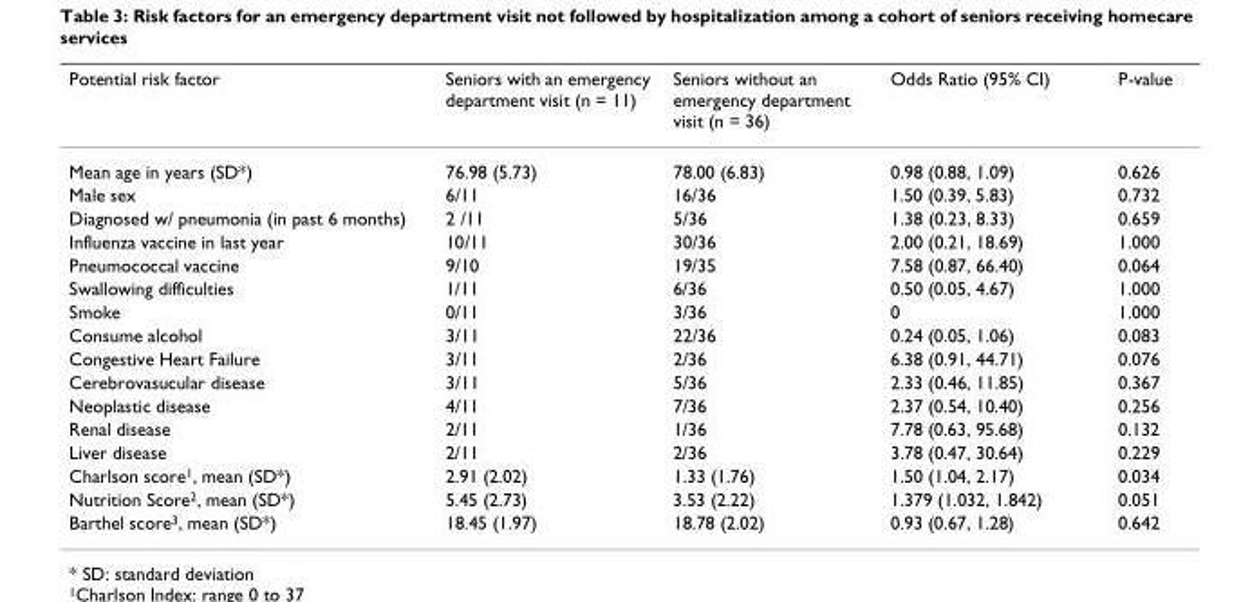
<table><thead><tr><td>Potential risk factor</td><td>Seniors with an emergency department visit (n = 11)</td><td>Seniors without an emergency department visit (n = 36)</td><td>Odds Ratio (95% CI)</td><td>P-value</td></tr></thead><tbody><tr><td>Mean age in years (SD*)</td><td>76.98 (5.73)</td><td>78.00 (6.83)</td><td>0.98 (0.88, 1.09)</td><td>0.626</td></tr><tr><td>Male sex</td><td>6/11</td><td>16/36</td><td>1.50 (0.39, 5.83)</td><td>0.732</td></tr><tr><td>Diagnosed w/ pneumonia (in past 6 months)</td><td>2 /11</td><td>5/36</td><td>1.38 (0.23, 8.33)</td><td>0.659</td></tr><tr><td>Influenza vaccine in last year</td><td>10/11</td><td>30/36</td><td>2.00 (0.21, 18.69)</td><td>1.000</td></tr><tr><td>Pneumococcal vaccine</td><td>9/10</td><td>19/35</td><td>7.58 (0.87, 66.40)</td><td>0.064</td></tr><tr><td>Swallowing difficulties</td><td>1/11</td><td>6/36</td><td>0.50 (0.05, 4.67)</td><td>1.000</td></tr><tr><td>Smoke</td><td>0/11</td><td>3/36</td><td>0</td><td>1.000</td></tr><tr><td>Consume alcohol</td><td>3/11</td><td>22/36</td><td>0.24 (0.05, 1.06)</td><td>0.083</td></tr><tr><td>Congestive Heart Failure</td><td>3/11</td><td>2/36</td><td>6.38 (0.91, 44.71)</td><td>0.076</td></tr><tr><td>Cerebrovasucular disease</td><td>3/11</td><td>5/36</td><td>2.33 (0.46, 11.85)</td><td>0.367</td></tr><tr><td>Neoplastic disease</td><td>4/11</td><td>7/36</td><td>2.37 (0.54, 10.40)</td><td>0.256</td></tr><tr><td>Renal disease</td><td>2/11</td><td>1/36</td><td>7.78 (0.63, 95.68)</td><td>0.132</td></tr><tr><td>Liver disease</td><td>2/11</td><td>2/36</td><td>3.78 (0.47, 30.64)</td><td>0.229</td></tr><tr><td>Charlson score<sup>1</sup>, mean (SD*)</td><td>2.91 (2.02)</td><td>1.33 (1.76)</td><td>1.50 (1.04, 2.17)</td><td>0.034</td></tr><tr><td>Nutrition Score<sup>2</sup>, mean (SD*)</td><td>5.45 (2.73)</td><td>3.53 (2.22)</td><td>1.379 (1.032, 1.842)</td><td>0.051</td></tr><tr><td>Barthel score<sup>3</sup>, mean (SD*)</td><td>18.45 (1.97)</td><td>18.78 (2.02)</td><td>0.93 (0.67, 1.28)</td><td>0.642</td></tr></tbody></table>